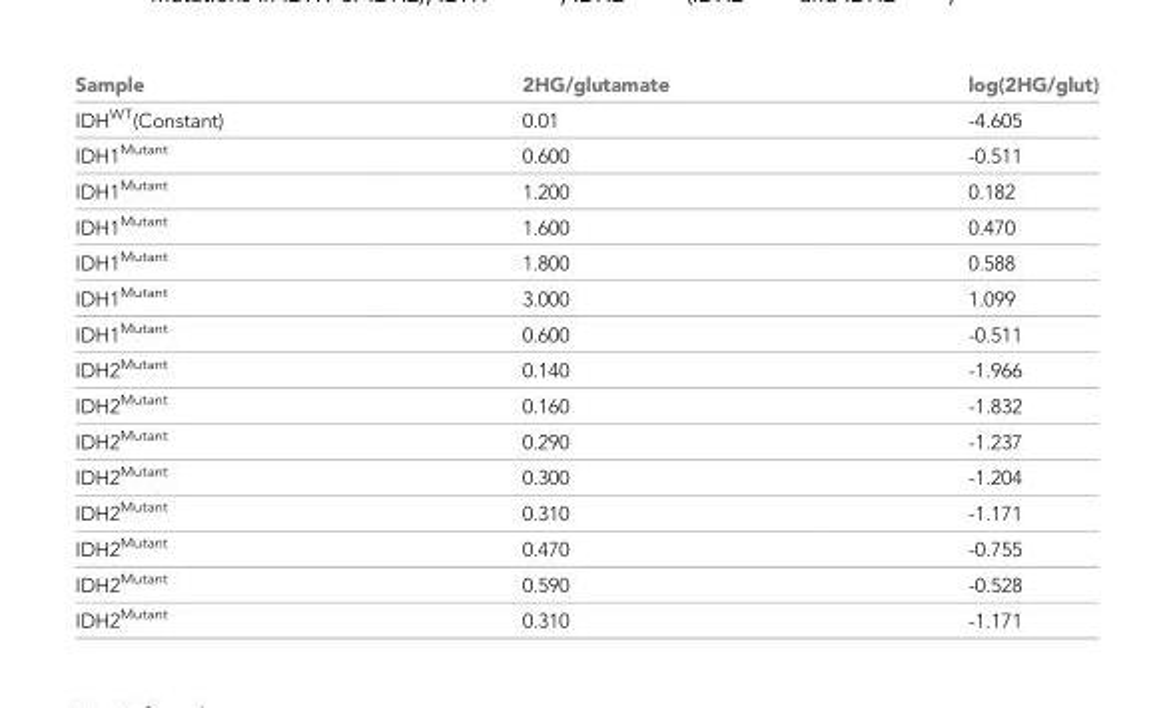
<table><thead><tr><td>Sample</td><td>2HG/glutamate</td><td>log(2HG/glut)</td></tr></thead><tbody><tr><td>IDH<sup>WT</sup>(Constant)</td><td>0.01</td><td>-4.605</td></tr><tr><td>IDH1<sup>Mutant</sup></td><td>0.600</td><td>-0.511</td></tr><tr><td>IDH1<sup>Mutant</sup></td><td>1.200</td><td>0.182</td></tr><tr><td>IDH1<sup>Mutant</sup></td><td>1.600</td><td>0.470</td></tr><tr><td>IDH1<sup>Mutant</sup></td><td>1.800</td><td>0.588</td></tr><tr><td>IDH1<sup>Mutant</sup></td><td>3.000</td><td>1.099</td></tr><tr><td>IDH1<sup>Mutant</sup></td><td>0.600</td><td>-0.511</td></tr><tr><td>IDH2<sup>Mutant</sup></td><td>0.140</td><td>-1.966</td></tr><tr><td>IDH2<sup>Mutant</sup></td><td>0.160</td><td>-1.832</td></tr><tr><td>IDH2<sup>Mutant</sup></td><td>0.290</td><td>-1.237</td></tr><tr><td>IDH2<sup>Mutant</sup></td><td>0.300</td><td>-1.204</td></tr><tr><td>IDH2<sup>Mutant</sup></td><td>0.310</td><td>-1.171</td></tr><tr><td>IDH2<sup>Mutant</sup></td><td>0.470</td><td>-0.755</td></tr><tr><td>IDH2<sup>Mutant</sup></td><td>0.590</td><td>-0.528</td></tr><tr><td>IDH2<sup>Mutant</sup></td><td>0.310</td><td>-1.171</td></tr></tbody></table>